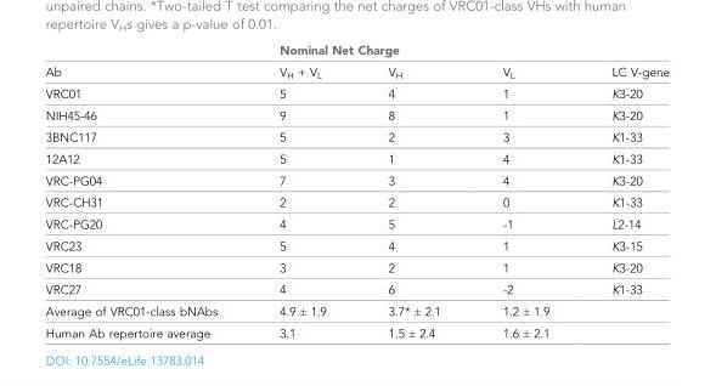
<table><thead><tr><td rowspan="2">Ab</td><td colspan="3">Nominal Net Charge</td><td rowspan="2">LC V-gene</td></tr><tr><td>V<sub>H</sub> + V<sub>L</sub></td><td>V<sub>H</sub></td><td>V<sub>L</sub></td></tr></thead><tbody><tr><td>VRC01</td><td>5</td><td>4</td><td>1</td><td>K3-20</td></tr><tr><td>NIH45-46</td><td>9</td><td>8</td><td>1</td><td>K3-20</td></tr><tr><td>3BNC117</td><td>5</td><td>2</td><td>3</td><td>K1-33</td></tr><tr><td>12A12</td><td>5</td><td>1</td><td>4</td><td>K1-33</td></tr><tr><td>VRC-PG04</td><td>7</td><td>3</td><td>4</td><td>K3-20</td></tr><tr><td>VRC-CH31</td><td>2</td><td>2</td><td>0</td><td>K1-33</td></tr><tr><td>VRC-PG20</td><td>4</td><td>5</td><td>-1</td><td>L2-14</td></tr><tr><td>VRC23</td><td>5</td><td>4</td><td>1</td><td>K3-15</td></tr><tr><td>VRC18</td><td>3</td><td>2</td><td>1</td><td>K3-20</td></tr><tr><td>VRC27</td><td>4</td><td>6</td><td>-2</td><td>K1-33</td></tr><tr><td>Average of VRC01-class bNAbs</td><td>4.9 ± 1.9</td><td>3.7* ± 2.1</td><td>1.2 ± 1.9</td><td></td></tr><tr><td>Human Ab repertoire average</td><td>3.1</td><td>1.5 ± 2.4</td><td>1.6 ± 2.1</td><td></td></tr></tbody></table>